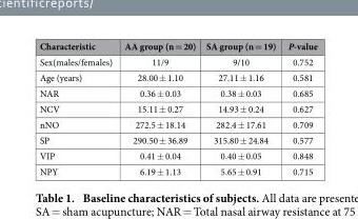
<table><thead><tr><td>Characteristic</td><td>AA group (n = 20)</td><td>SA group (n = 19)</td><td>P-value</td></tr></thead><tbody><tr><td>Sex(males/females)</td><td>11/9</td><td>9/10</td><td>0.752</td></tr><tr><td>Age (years)</td><td>28.00 ± 1.10</td><td>27.11 ± 1.16</td><td>0.581</td></tr><tr><td>NAR</td><td>0.36 ± 0.03</td><td>0.38 ± 0.03</td><td>0.685</td></tr><tr><td>NCV</td><td>15.11 ± 0.27</td><td>14.93 ± 0.24</td><td>0.627</td></tr><tr><td>nNO</td><td>272.5 ± 18.14</td><td>282.4 ± 17.61</td><td>0.709</td></tr><tr><td>SP</td><td>290.50 ± 36.89</td><td>315.80 ± 24.84</td><td>0.577</td></tr><tr><td>VIP</td><td>0.41 ± 0.04</td><td>0.40 ± 0.05</td><td>0.848</td></tr><tr><td>NPY</td><td>6.19 ± 1.13</td><td>5.65 ± 0.91</td><td>0.715</td></tr></tbody></table>